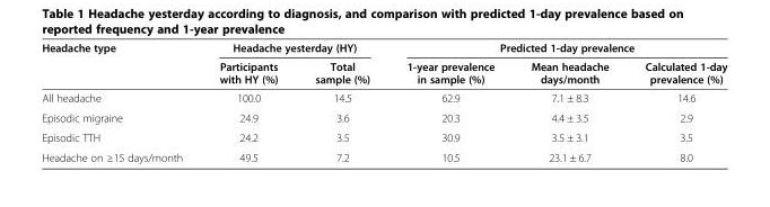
<table><thead><tr><td rowspan="2">Headache type</td><td colspan="2">Headache yesterday (HY)</td><td colspan="3">Predicted 1-day prevalence</td></tr><tr><td>Participants with HY (%)</td><td>Total sample (%)</td><td>1-year prevalence in sample (%)</td><td>Mean headache days/month</td><td>Calculated 1-day prevalence (%)</td></tr></thead><tbody><tr><td>All headache</td><td>100.0</td><td>14.5</td><td>62.9</td><td>7.1 ± 8.3</td><td>14.6</td></tr><tr><td>Episodic migraine</td><td>24.9</td><td>3.6</td><td>20.3</td><td>4.4 ± 3.5</td><td>2.9</td></tr><tr><td>Episodic TTH</td><td>24.2</td><td>3.5</td><td>30.9</td><td>3.5 ± 3.1</td><td>3.5</td></tr><tr><td>Headache on ≥15 days/month</td><td>49.5</td><td>7.2</td><td>10.5</td><td>23.1 ± 6.7</td><td>8.0</td></tr></tbody></table>